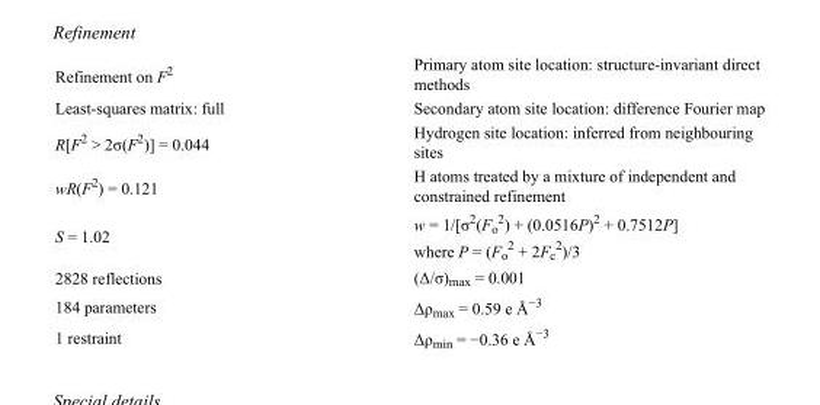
<table><tbody><tr><td>Refinement on F<sup>2</sup></td><td>Primary atom site location: structure-invariant direct methods</td></tr><tr><td>Least-squares matrix: full</td><td>Secondary atom site location: difference Fourier map</td></tr><tr><td>R[F<sup>2</sup> &gt; 2σ(F<sup>2</sup>)] = 0.044</td><td>Hydrogen site location: inferred from neighbouring sites</td></tr><tr><td>wR(F<sup>2</sup>) = 0.121</td><td>H atoms treated by a mixture of independent and constrained refinement</td></tr><tr><td>S = 1.02</td><td>w = 1/[σ<sup>2</sup>(F<sub>o</sub> <sup>2</sup>) + (0.0516P)<sup>2</sup> + 0.7512P] where P = (F<sub>o</sub> <sup>2</sup> + 2F<sub>c</sub> <sup>2</sup>)/3</td></tr><tr><td>2828 reflections</td><td>(Δ/σ)<sub>max</sub> = 0.001</td></tr><tr><td>184 parameters</td><td>Δρ<sub>max</sub> = 0.59 e Å<sup>−3</sup></td></tr><tr><td>1 restraint</td><td>Δρ<sub>min</sub> = −0.36 e Å<sup>−3</sup></td></tr></tbody></table>